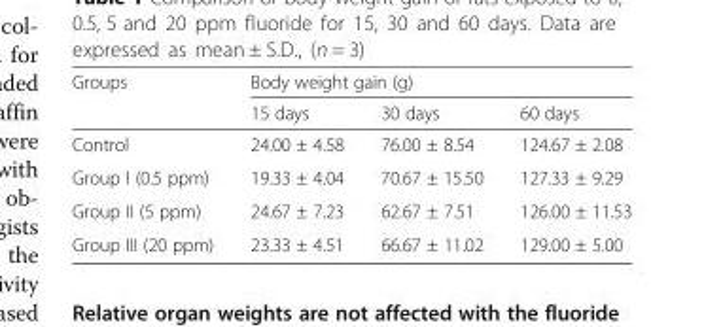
<table><thead><tr><td rowspan="2">Groups</td><td colspan="3">Body weight gain (g)</td></tr><tr><td>15 days</td><td>30 days</td><td>60 days</td></tr></thead><tbody><tr><td>Control</td><td>24.00 ± 4.58</td><td>76.00 ± 8.54</td><td>124.67 ± 2.08</td></tr><tr><td>Group I (0.5 ppm)</td><td>19.33 ± 4.04</td><td>70.67 ± 15.50</td><td>127.33 ± 9.29</td></tr><tr><td>Group II (5 ppm)</td><td>24.67 ± 7.23</td><td>62.67 ± 7.51</td><td>126.00 ± 11.53</td></tr><tr><td>Group III (20 ppm)</td><td>23.33 ± 4.51</td><td>66.67 ± 11.02</td><td>129.00 ± 5.00</td></tr></tbody></table>